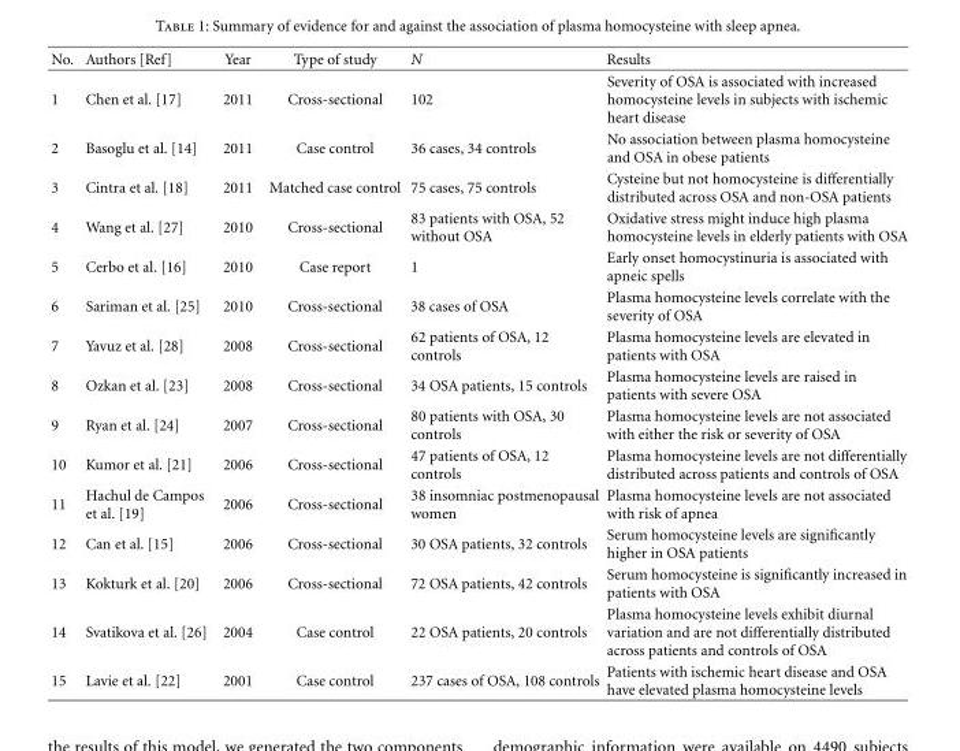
<table><thead><tr><td>No.</td><td>Authors [Ref]</td><td>Year</td><td>Type of study</td><td>N</td><td>Results</td></tr></thead><tbody><tr><td>1</td><td>Chen et al. [17]</td><td>2011</td><td>Cross-sectional</td><td>102</td><td>Severity of OSA is associated with increased homocysteine levels in subjects with ischemic heart disease</td></tr><tr><td>2</td><td>Basoglu et al. [14]</td><td>2011</td><td>Case control</td><td>36 cases, 34 controls</td><td>No association between plasma homocysteine and OSA in obese patients</td></tr><tr><td>3</td><td>Cintra et al. [18]</td><td>2011</td><td>Matched case control</td><td>75 cases, 75 controls</td><td>Cysteine but not homocysteine is differentially distributed across OSA and non-OSA patients</td></tr><tr><td>4</td><td>Wang et al. [27]</td><td>2010</td><td>Cross-sectional</td><td>83 patients with OSA, 52 without OSA</td><td>Oxidative stress might induce high plasma homocysteine levels in elderly patients with OSA</td></tr><tr><td>5</td><td>Cerbo et al. [16]</td><td>2010</td><td>Case report</td><td>1</td><td>Early onset homocystinuria is associated with apneic spells</td></tr><tr><td>6</td><td>Sariman et al. [25]</td><td>2010</td><td>Cross-sectional</td><td>38 cases of OSA</td><td>Plasma homocysteine levels correlate with the severity of OSA</td></tr><tr><td>7</td><td>Yavuz et al. [28]</td><td>2008</td><td>Cross-sectional</td><td>62 patients of OSA, 12 controls</td><td>Plasma homocysteine levels are elevated in patients with OSA</td></tr><tr><td>8</td><td>Ozkan et al. [23]</td><td>2008</td><td>Cross-sectional</td><td>34 OSA patients, 15 controls</td><td>Plasma homocysteine levels are raised in patients with severe OSA</td></tr><tr><td>9</td><td>Ryan et al. [24]</td><td>2007</td><td>Cross-sectional</td><td>80 patients with OSA, 30 controls</td><td>Plasma homocysteine levels are not associated with either the risk or severity of OSA</td></tr><tr><td>10</td><td>Kumor et al. [21]</td><td>2006</td><td>Cross-sectional</td><td>47 patients of OSA, 12 controls</td><td>Plasma homocysteine levels are not differentially distributed across patients and controls of OSA</td></tr><tr><td>11</td><td>Hachul de Campos et al. [19]</td><td>2006</td><td>Cross-sectional</td><td>38 insomniac postmenopausal women</td><td>Plasma homocysteine levels are not associated with risk of apnea</td></tr><tr><td>12</td><td>Can et al. [15]</td><td>2006</td><td>Cross-sectional</td><td>30 OSA patients, 32 controls</td><td>Serum homocysteine levels are significantly higher in OSA patients</td></tr><tr><td>13</td><td>Kokturk et al. [20]</td><td>2006</td><td>Cross-sectional</td><td>72 OSA patients, 42 controls</td><td>Serum homocysteine is significantly increased in patients with OSA</td></tr><tr><td>14</td><td>Svatikova et al. [26]</td><td>2004</td><td>Case control</td><td>22 OSA patients, 20 controls</td><td>Plasma homocysteine levels exhibit diurnal variation and are not differentially distributed across patients and controls of OSA</td></tr><tr><td>15</td><td>Lavie et al. [22]</td><td>2001</td><td>Case control</td><td>237 cases of OSA, 108 controls</td><td>Patients with ischemic heart disease and OSA have elevated plasma homocysteine levels</td></tr></tbody></table>